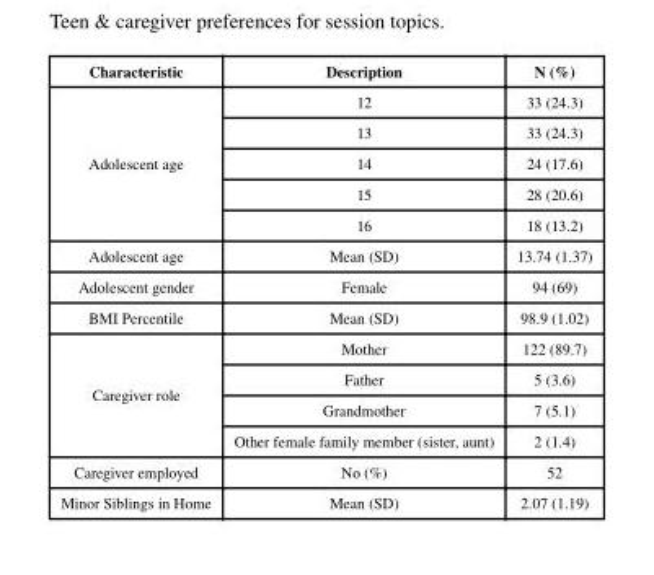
<table><thead><tr><td>Characteristic</td><td>Description</td><td>N (%)</td></tr></thead><tbody><tr><td rowspan="5">Adolescent age</td><td>12</td><td>33 (24.3)</td></tr><tr><td>13</td><td>33 (24.3)</td></tr><tr><td>14</td><td>24 (17.6)</td></tr><tr><td>15</td><td>28 (20.6)</td></tr><tr><td>16</td><td>18 (13.2)</td></tr><tr><td>Adolescent age</td><td>Mean (SD)</td><td>13.74 (1.37)</td></tr><tr><td>Adolescent gender</td><td>Female</td><td>94 (69)</td></tr><tr><td>BMI Percentile</td><td>Mean (SD)</td><td>98.9 (1.02)</td></tr><tr><td rowspan="4">Caregiver role</td><td>Mother</td><td>122 (89.7)</td></tr><tr><td>Father</td><td>5 (3.6)</td></tr><tr><td>Grandmother</td><td>7 (5.1)</td></tr><tr><td>Other female family member (sister, aunt)</td><td>2 (1.4)</td></tr><tr><td>Caregiver employed</td><td>No (%)</td><td>52</td></tr><tr><td>Minor Siblings in Home</td><td>Mean (SD)</td><td>2.07 (1.19)</td></tr></tbody></table>